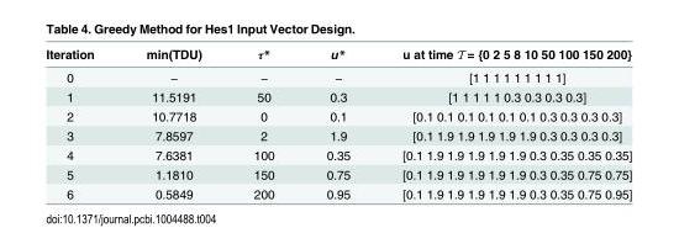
<table><thead><tr><td>Iteration</td><td>min(TDU)</td><td>τ*</td><td>u*</td><td>u at time T = {0 2 5 8 10 50 100 150 200}</td></tr></thead><tbody><tr><td>0</td><td>−</td><td>−</td><td>−</td><td>[1 1 1 1 1 1 1 1 1]</td></tr><tr><td>1</td><td>11.5191</td><td>50</td><td>0.3</td><td>[1 1 1 1 1 0.3 0.3 0.3 0.3]</td></tr><tr><td>2</td><td>10.7718</td><td>0</td><td>0.1</td><td>[0.1 0.1 0.1 0.1 0.1 0.1 0.3 0.3 0.3 0.3]</td></tr><tr><td>3</td><td>7.8597</td><td>2</td><td>1.9</td><td>[0.1 1.9 1.9 1.9 1.9 1.9 0.3 0.3 0.3 0.3]</td></tr><tr><td>4</td><td>7.6381</td><td>100</td><td>0.35</td><td>[0.1 1.9 1.9 1.9 1.9 1.9 0.3 0.35 0.35 0.35]</td></tr><tr><td>5</td><td>1.1810</td><td>150</td><td>0.75</td><td>[0.1 1.9 1.9 1.9 1.9 1.9 0.3 0.35 0.75 0.75]</td></tr><tr><td>6</td><td>0.5849</td><td>200</td><td>0.95</td><td>[0.1 1.9 1.9 1.9 1.9 1.9 0.3 0.35 0.75 0.95]</td></tr></tbody></table>